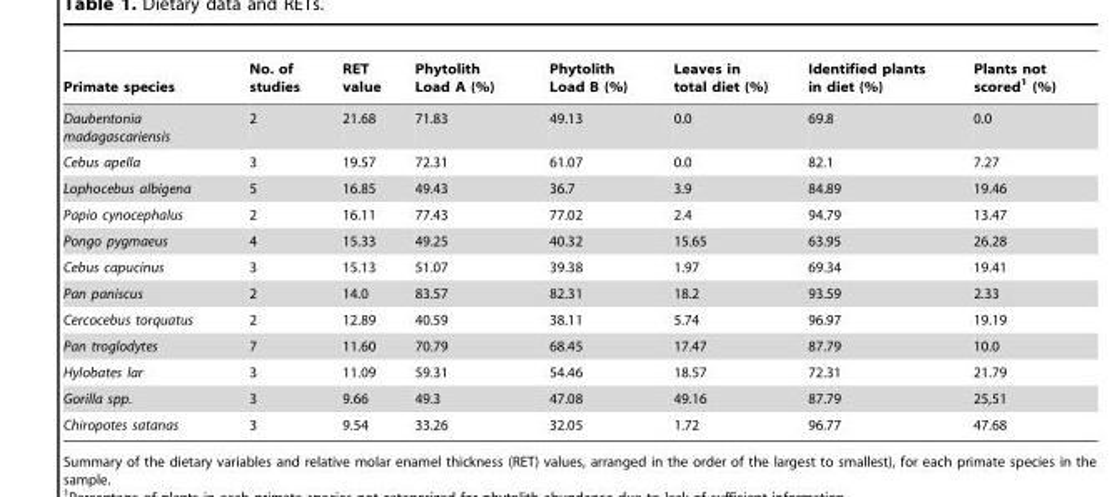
<table><thead><tr><td>Primate species</td><td>No. of studies</td><td>RET value</td><td>Phytolith Load A (%)</td><td>Phytolith Load B (%)</td><td>Leaves in total diet (%)</td><td>Identified plants in diet (%)</td><td>Plants not scored<sup>1</sup> (%)</td></tr></thead><tbody><tr><td>Daubentonia madagascariensis</td><td>2</td><td>21.68</td><td>71.83</td><td>49.13</td><td>0.0</td><td>69.8</td><td>0.0</td></tr><tr><td>Cebus apella</td><td>3</td><td>19.57</td><td>72.31</td><td>61.07</td><td>0.0</td><td>82.1</td><td>7.27</td></tr><tr><td>Lophocebus albigena</td><td>5</td><td>16.85</td><td>49.43</td><td>36.7</td><td>3.9</td><td>84.89</td><td>19.46</td></tr><tr><td>Papio cynocephalus</td><td>2</td><td>16.11</td><td>77.43</td><td>77.02</td><td>2.4</td><td>94.79</td><td>13.47</td></tr><tr><td>Pongo pygmaeus</td><td>4</td><td>15.33</td><td>49.25</td><td>40.32</td><td>15.65</td><td>63.95</td><td>26.28</td></tr><tr><td>Cebus capucinus</td><td>3</td><td>15.13</td><td>51.07</td><td>39.38</td><td>1.97</td><td>69.34</td><td>19.41</td></tr><tr><td>Pan paniscus</td><td>2</td><td>14.0</td><td>83.57</td><td>82.31</td><td>18.2</td><td>93.59</td><td>2.33</td></tr><tr><td>Cercocebus torquatus</td><td>2</td><td>12.89</td><td>40.59</td><td>38.11</td><td>5.74</td><td>96.97</td><td>19.19</td></tr><tr><td>Pan troglodytes</td><td>7</td><td>11.60</td><td>70.79</td><td>68.45</td><td>17.47</td><td>87.79</td><td>10.0</td></tr><tr><td>Hylobates lar</td><td>3</td><td>11.09</td><td>59.31</td><td>54.46</td><td>18.57</td><td>72.31</td><td>21.79</td></tr><tr><td>Gorilla spp.</td><td>3</td><td>9.66</td><td>49.3</td><td>47.08</td><td>49.16</td><td>87.79</td><td>25,51</td></tr><tr><td>Chiropotes satanas</td><td>3</td><td>9.54</td><td>33.26</td><td>32.05</td><td>1.72</td><td>96.77</td><td>47.68</td></tr></tbody></table>